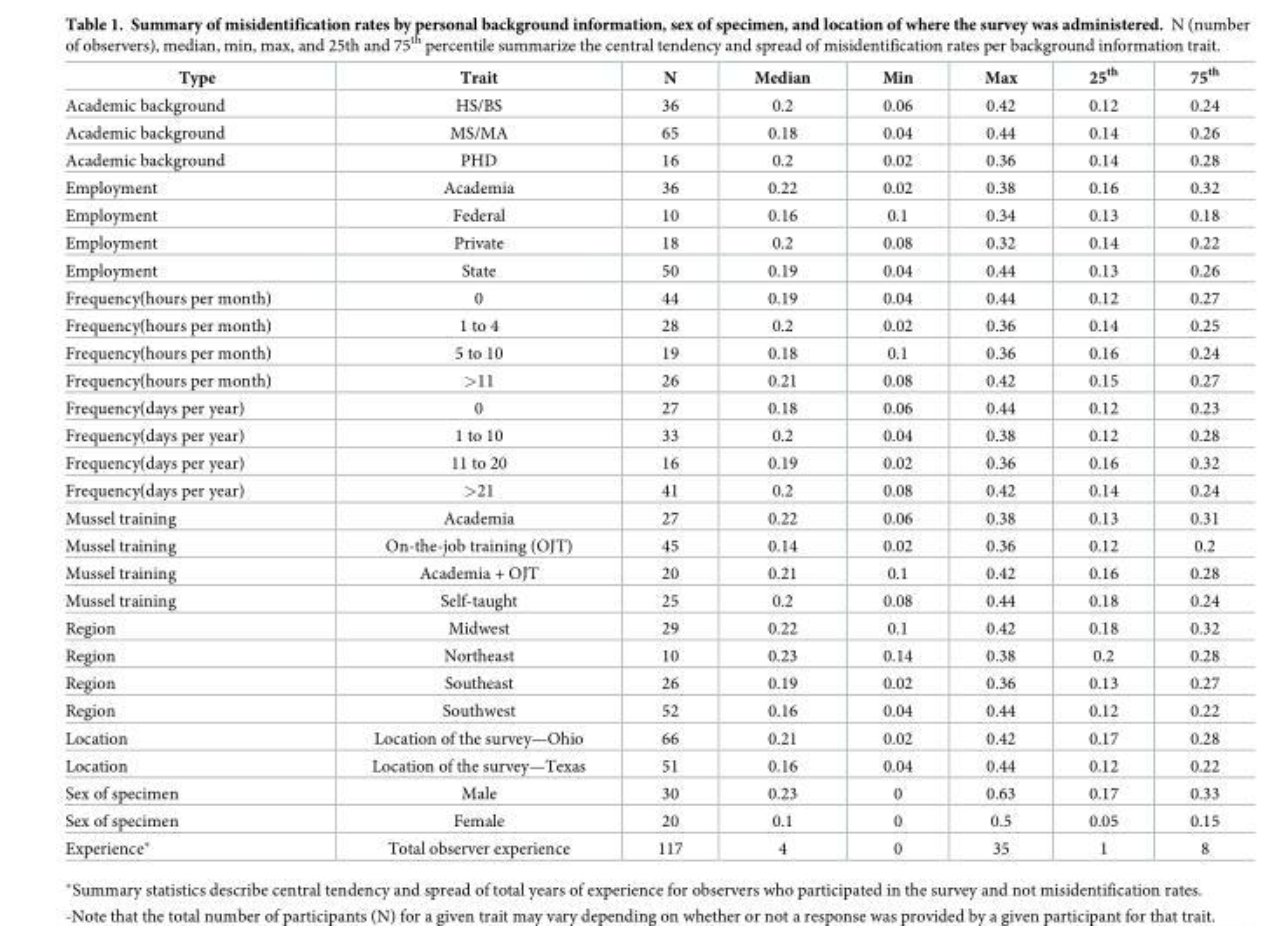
<table><thead><tr><td>Type</td><td>Trait</td><td>N</td><td>Median</td><td>Min</td><td>Max</td><td>25<sup>th</sup></td><td>75<sup>th</sup></td></tr></thead><tbody><tr><td>Academic background</td><td>HS/BS</td><td>36</td><td>0.2</td><td>0.06</td><td>0.42</td><td>0.12</td><td>0.24</td></tr><tr><td>Academic background</td><td>MS/MA</td><td>65</td><td>0.18</td><td>0.04</td><td>0.44</td><td>0.14</td><td>0.26</td></tr><tr><td>Academic background</td><td>PHD</td><td>16</td><td>0.2</td><td>0.02</td><td>0.36</td><td>0.14</td><td>0.28</td></tr><tr><td>Employment</td><td>Academia</td><td>36</td><td>0.22</td><td>0.02</td><td>0.38</td><td>0.16</td><td>0.32</td></tr><tr><td>Employment</td><td>Federal</td><td>10</td><td>0.16</td><td>0.1</td><td>0.34</td><td>0.13</td><td>0.18</td></tr><tr><td>Employment</td><td>Private</td><td>18</td><td>0.2</td><td>0.08</td><td>0.32</td><td>0.14</td><td>0.22</td></tr><tr><td>Employment</td><td>State</td><td>50</td><td>0.19</td><td>0.04</td><td>0.44</td><td>0.13</td><td>0.26</td></tr><tr><td>Frequency(hours per month)</td><td>0</td><td>44</td><td>0.19</td><td>0.04</td><td>0.44</td><td>0.12</td><td>0.27</td></tr><tr><td>Frequency(hours per month)</td><td>1 to 4</td><td>28</td><td>0.2</td><td>0.02</td><td>0.36</td><td>0.14</td><td>0.25</td></tr><tr><td>Frequency(hours per month)</td><td>5 to 10</td><td>19</td><td>0.18</td><td>0.1</td><td>0.36</td><td>0.16</td><td>0.24</td></tr><tr><td>Frequency(hours per month)</td><td>&gt;11</td><td>26</td><td>0.21</td><td>0.08</td><td>0.42</td><td>0.15</td><td>0.27</td></tr><tr><td>Frequency(days per year)</td><td>0</td><td>27</td><td>0.18</td><td>0.06</td><td>0.44</td><td>0.12</td><td>0.23</td></tr><tr><td>Frequency(days per year)</td><td>1 to 10</td><td>33</td><td>0.2</td><td>0.04</td><td>0.38</td><td>0.12</td><td>0.28</td></tr><tr><td>Frequency(days per year)</td><td>11 to 20</td><td>16</td><td>0.19</td><td>0.02</td><td>0.36</td><td>0.16</td><td>0.32</td></tr><tr><td>Frequency(days per year)</td><td>&gt;21</td><td>41</td><td>0.2</td><td>0.08</td><td>0.42</td><td>0.14</td><td>0.24</td></tr><tr><td>Mussel training</td><td>Academia</td><td>27</td><td>0.22</td><td>0.06</td><td>0.38</td><td>0.13</td><td>0.31</td></tr><tr><td>Mussel training</td><td>On-the-job training (OJT)</td><td>45</td><td>0.14</td><td>0.02</td><td>0.36</td><td>0.12</td><td>0.2</td></tr><tr><td>Mussel training</td><td>Academia + OJT</td><td>20</td><td>0.21</td><td>0.1</td><td>0.42</td><td>0.16</td><td>0.28</td></tr><tr><td>Mussel training</td><td>Self-taught</td><td>25</td><td>0.2</td><td>0.08</td><td>0.44</td><td>0.18</td><td>0.24</td></tr><tr><td>Region</td><td>Midwest</td><td>29</td><td>0.22</td><td>0.1</td><td>0.42</td><td>0.18</td><td>0.32</td></tr><tr><td>Region</td><td>Northeast</td><td>10</td><td>0.23</td><td>0.14</td><td>0.38</td><td>0.2</td><td>0.28</td></tr><tr><td>Region</td><td>Southeast</td><td>26</td><td>0.19</td><td>0.02</td><td>0.36</td><td>0.13</td><td>0.27</td></tr><tr><td>Region</td><td>Southwest</td><td>52</td><td>0.16</td><td>0.04</td><td>0.44</td><td>0.12</td><td>0.22</td></tr><tr><td>Location</td><td>Location of the survey—Ohio</td><td>66</td><td>0.21</td><td>0.02</td><td>0.42</td><td>0.17</td><td>0.28</td></tr><tr><td>Location</td><td>Location of the survey—Texas</td><td>51</td><td>0.16</td><td>0.04</td><td>0.44</td><td>0.12</td><td>0.22</td></tr><tr><td>Sex of specimen</td><td>Male</td><td>30</td><td>0.23</td><td>0</td><td>0.63</td><td>0.17</td><td>0.33</td></tr><tr><td>Sex of specimen</td><td>Female</td><td>20</td><td>0.1</td><td>0</td><td>0.5</td><td>0.05</td><td>0.15</td></tr><tr><td>Experience*</td><td>Total observer experience</td><td>117</td><td>4</td><td>0</td><td>35</td><td>1</td><td>8</td></tr></tbody></table>